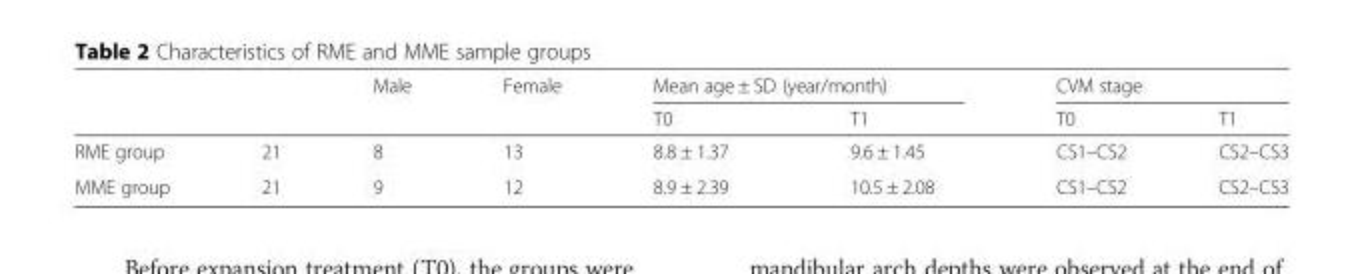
<table><thead><tr><td rowspan="2"></td><td rowspan="2"></td><td rowspan="2">Male</td><td rowspan="2">Female</td><td colspan="2">Mean age ± SD (year/month)</td><td colspan="2">CVM stage</td></tr><tr><td>T0</td><td>T1</td><td>T0</td><td>T1</td></tr></thead><tbody><tr><td>RME group</td><td>21</td><td>8</td><td>13</td><td>8.8 ± 1.37</td><td>9.6 ± 1.45</td><td>CS1–CS2</td><td>CS2–CS3</td></tr><tr><td>MME group</td><td>21</td><td>9</td><td>12</td><td>8.9 ± 2.39</td><td>10.5 ± 2.08</td><td>CS1–CS2</td><td>CS2–CS3</td></tr></tbody></table>